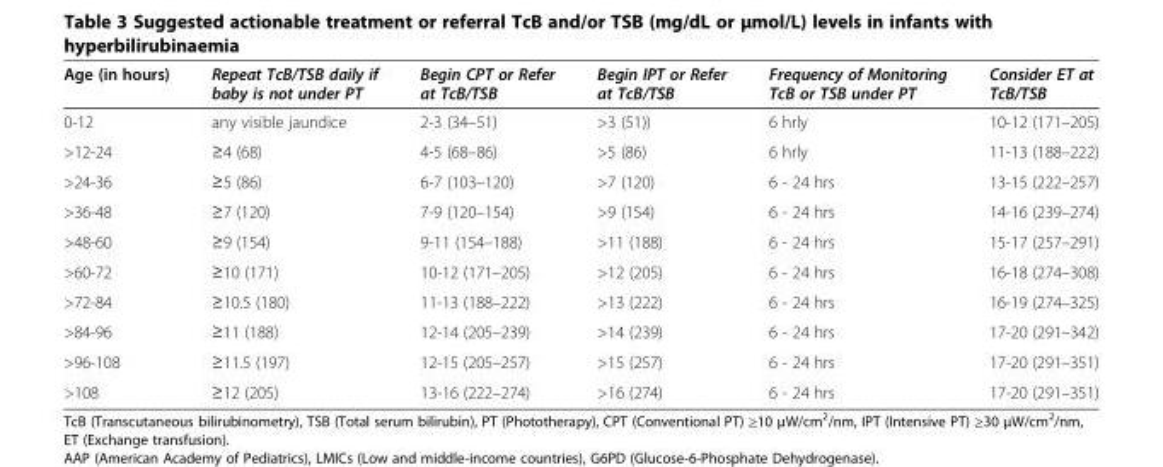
<table><thead><tr><td>Age (in hours)</td><td>Repeat TcB/TSB daily if baby is not under PT</td><td>Begin CPT or Refer at TcB/TSB</td><td>Begin IPT or Refer at TcB/TSB</td><td>Frequency of Monitoring TcB or TSB under PT</td><td>Consider ET at TcB/TSB</td></tr></thead><tbody><tr><td>0-12</td><td>any visible jaundice</td><td>2-3 (34–51)</td><td>&gt;3 (51))</td><td>6 hrly</td><td>10-12 (171–205)</td></tr><tr><td>&gt;12-24</td><td>≥4 (68)</td><td>4-5 (68–86)</td><td>&gt;5 (86)</td><td>6 hrly</td><td>11-13 (188–222)</td></tr><tr><td>&gt;24-36</td><td>≥5 (86)</td><td>6-7 (103–120)</td><td>&gt;7 (120)</td><td>6 - 24 hrs</td><td>13-15 (222–257)</td></tr><tr><td>&gt;36-48</td><td>≥7 (120)</td><td>7-9 (120–154)</td><td>&gt;9 (154)</td><td>6 - 24 hrs</td><td>14-16 (239–274)</td></tr><tr><td>&gt;48-60</td><td>≥9 (154)</td><td>9-11 (154–188)</td><td>&gt;11 (188)</td><td>6 - 24 hrs</td><td>15-17 (257–291)</td></tr><tr><td>&gt;60-72</td><td>≥10 (171)</td><td>10-12 (171–205)</td><td>&gt;12 (205)</td><td>6 - 24 hrs</td><td>16-18 (274–308)</td></tr><tr><td>&gt;72-84</td><td>≥10.5 (180)</td><td>11-13 (188–222)</td><td>&gt;13 (222)</td><td>6 - 24 hrs</td><td>16-19 (274–325)</td></tr><tr><td>&gt;84-96</td><td>≥11 (188)</td><td>12-14 (205–239)</td><td>&gt;14 (239)</td><td>6 - 24 hrs</td><td>17-20 (291–342)</td></tr><tr><td>&gt;96-108</td><td>≥11.5 (197)</td><td>12-15 (205–257)</td><td>&gt;15 (257)</td><td>6 - 24 hrs</td><td>17-20 (291–351)</td></tr><tr><td>&gt;108</td><td>≥12 (205)</td><td>13-16 (222–274)</td><td>&gt;16 (274)</td><td>6 - 24 hrs</td><td>17-20 (291–351)</td></tr></tbody></table>